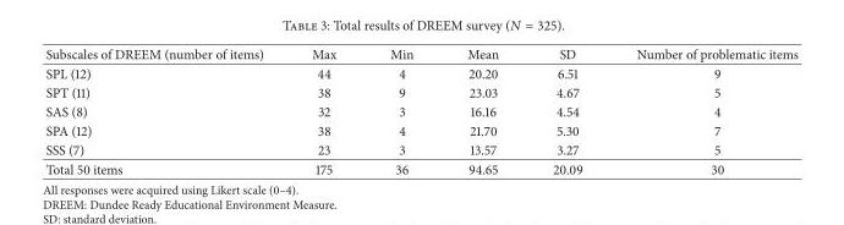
<table><thead><tr><td>Subscales of DREEM (number of items)</td><td>Max</td><td>Min</td><td>Mean</td><td>SD</td><td>Number of problematic items</td></tr></thead><tbody><tr><td>SPL (12)</td><td>44</td><td>4</td><td>20.20</td><td>6.51</td><td>9</td></tr><tr><td>SPT (11)</td><td>38</td><td>9</td><td>23.03</td><td>4.67</td><td>5</td></tr><tr><td>SAS (8)</td><td>32</td><td>3</td><td>16.16</td><td>4.54</td><td>4</td></tr><tr><td>SPA (12)</td><td>38</td><td>4</td><td>21.70</td><td>5.30</td><td>7</td></tr><tr><td>SSS (7)</td><td>23</td><td>3</td><td>13.57</td><td>3.27</td><td>5</td></tr><tr><td>Total 50 items</td><td>175</td><td>36</td><td>94.65</td><td>20.09</td><td>30</td></tr></tbody></table>